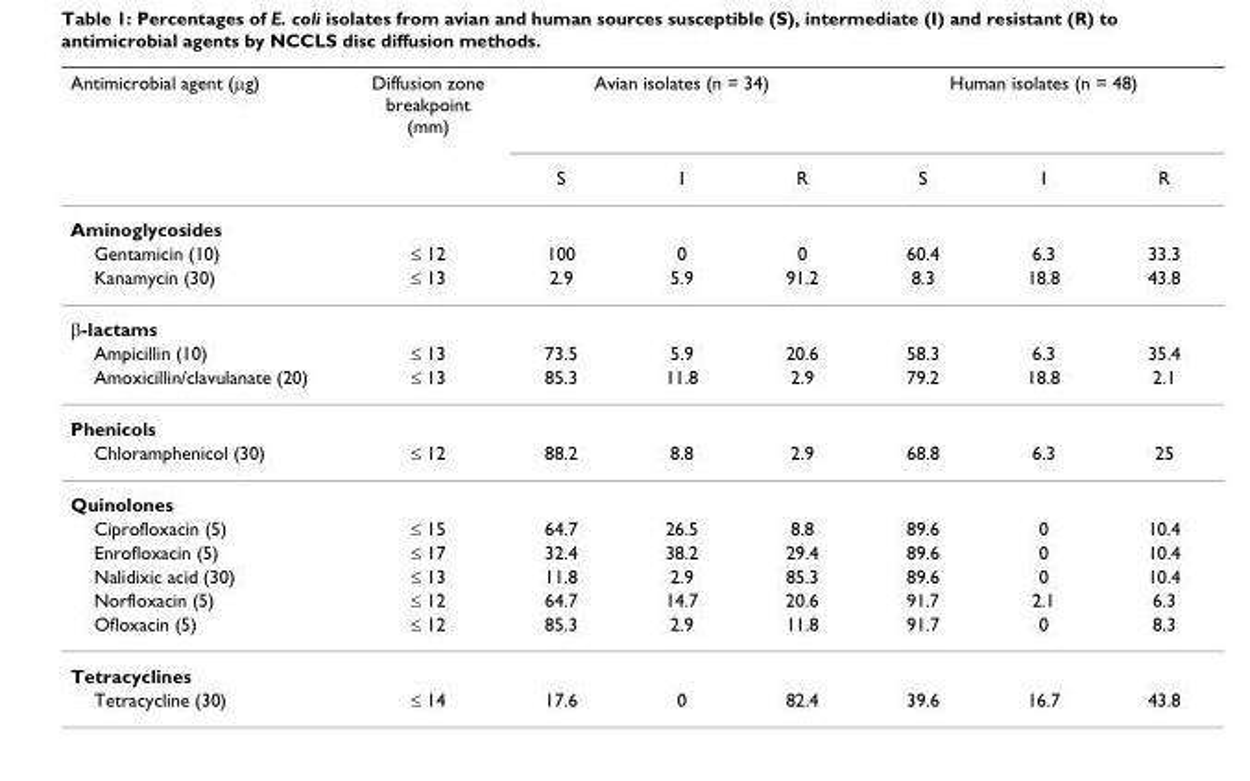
<table><thead><tr><td rowspan="2">Antimicrobial agent (µg)</td><td rowspan="2">Diffusion zone breakpoint (mm)</td><td colspan="3">Avian isolates (n = 34)</td><td colspan="3">Human isolates (n = 48)</td></tr><tr><td>S</td><td>I</td><td>R</td><td>S</td><td>I</td><td>R</td></tr></thead><tbody><tr><td colspan="8">Aminoglycosides</td></tr><tr><td>Gentamicin (10)</td><td>≤ 12</td><td>100</td><td>0</td><td>0</td><td>60.4</td><td>6.3</td><td>33.3</td></tr><tr><td>Kanamycin (30)</td><td>≤ 13</td><td>2.9</td><td>5.9</td><td>91.2</td><td>8.3</td><td>18.8</td><td>43.8</td></tr><tr><td colspan="8">β-lactams</td></tr><tr><td>Ampicillin (10)</td><td>≤ 13</td><td>73.5</td><td>5.9</td><td>20.6</td><td>58.3</td><td>6.3</td><td>35.4</td></tr><tr><td>Amoxicillin/clavulanate (20)</td><td>≤ 13</td><td>85.3</td><td>11.8</td><td>2.9</td><td>79.2</td><td>18.8</td><td>2.1</td></tr><tr><td colspan="8">Phenicols</td></tr><tr><td>Chloramphenicol (30)</td><td>≤ 12</td><td>88.2</td><td>8.8</td><td>2.9</td><td>68.8</td><td>6.3</td><td>25</td></tr><tr><td colspan="8">Quinolones</td></tr><tr><td>Ciprofloxacin (5)</td><td>≤ 15</td><td>64.7</td><td>26.5</td><td>8.8</td><td>89.6</td><td>0</td><td>10.4</td></tr><tr><td>Enrofloxacin (5)</td><td>≤ 17</td><td>32.4</td><td>38.2</td><td>29.4</td><td>89.6</td><td>0</td><td>10.4</td></tr><tr><td>Nalidixic acid (30)</td><td>≤ 13</td><td>11.8</td><td>2.9</td><td>85.3</td><td>89.6</td><td>0</td><td>10.4</td></tr><tr><td>Norfloxacin (5)</td><td>≤ 12</td><td>64.7</td><td>14.7</td><td>20.6</td><td>91.7</td><td>2.1</td><td>6.3</td></tr><tr><td>Ofloxacin (5)</td><td>≤ 12</td><td>85.3</td><td>2.9</td><td>11.8</td><td>91.7</td><td>0</td><td>8.3</td></tr><tr><td colspan="8">Tetracyclines</td></tr><tr><td>Tetracycline (30)</td><td>≤ 14</td><td>17.6</td><td>0</td><td>82.4</td><td>39.6</td><td>16.7</td><td>43.8</td></tr></tbody></table>